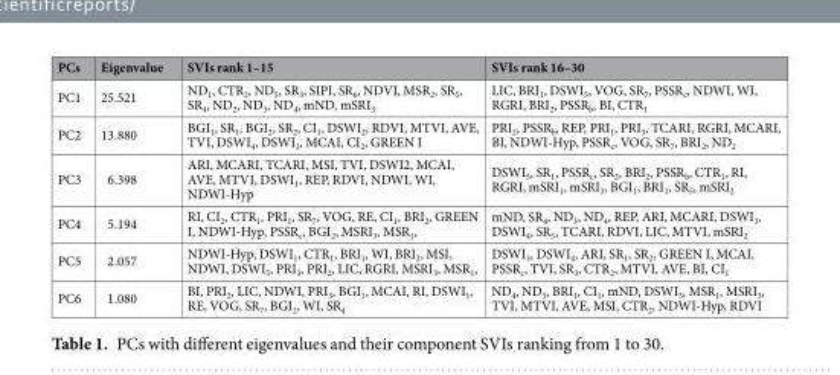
<table><thead><tr><td>PCs</td><td>Eigenvalue</td><td>SVIs rank 1–15</td><td>SVIs rank 16–30</td></tr></thead><tbody><tr><td>PC1</td><td>25.521</td><td>ND<sub>1</sub>, CTR<sub>2</sub>, ND<sub>5</sub>, SR<sub>3</sub>, SIPI, SR<sub>6</sub>, NDVI, MSR<sub>2</sub>, SR<sub>5</sub>, SR<sub>4</sub>, ND<sub>2</sub>, ND<sub>3</sub>, ND<sub>4</sub>, mND, mSRI<sub>3</sub></td><td>LIC, BRI<sub>1</sub>, DSWI<sub>5</sub>, VOG, SR<sub>7</sub>, PSSR<sub>c</sub>, NDWI, WI, RGRI, BRI<sub>2</sub>, PSSR<sub>b</sub>, BI, CTR<sub>1</sub></td></tr><tr><td>PC2</td><td>13.880</td><td>BGI<sub>1</sub>, SR<sub>1</sub>, BGI<sub>2</sub>, SR<sub>2</sub>, CI<sub>1</sub>, DSWI<sub>2</sub>, RDVI, MTVI, AVE, TVI, DSWI<sub>4</sub>, DSWI<sub>3</sub>, MCAI, CI<sub>2</sub>, GREEN I</td><td>PRI<sub>2</sub>, PSSR<sub>b</sub>, REP, PRI<sub>1</sub>, PRI<sub>3</sub>, TCARI, RGRI, MCARI, BI, NDWI-Hyp, PSSR<sub>c</sub>, VOG, SR<sub>7</sub>, BRI<sub>2</sub>, ND<sub>2</sub></td></tr><tr><td>PC3</td><td>6.398</td><td>ARI, MCARI, TCARI, MSI, TVI, DSWI2, MCAI, AVE, MTVI, DSWI<sub>1</sub>, REP, RDVI, NDWI, WI, NDWI-Hyp</td><td>DSWI<sub>5</sub>, SR<sub>1</sub>, PSSR<sub>c</sub>, SR<sub>2</sub>, BRI<sub>2</sub>, PSSR<sub>b</sub>, CTR<sub>1</sub>, RI, RGRI, mSRI<sub>1</sub>, mSRI<sub>3</sub>, BGI<sub>1</sub>, BRI<sub>1</sub>, SR<sub>5</sub>, mSRI<sub>2</sub></td></tr><tr><td>PC4</td><td>5.194</td><td>RI, CI<sub>2</sub>, CTR<sub>1</sub>, PRI<sub>1</sub>, SR<sub>7</sub>, VOG, RE, CI<sub>1</sub>, BRI<sub>2</sub>, GREEN I, NDWI-Hyp, PSSR<sub>c</sub>, BGI<sub>2</sub>, MSRI<sub>3</sub>, MSR<sub>1</sub>,</td><td>mND, SR<sub>4</sub>, ND<sub>3</sub>, ND<sub>4</sub>, REP, ARI, MCARI, DSWI<sub>3</sub>, DSWI<sub>4</sub>, SR<sub>5</sub>, TCARI, RDVI, LIC, MTVI, mSRI<sub>2</sub></td></tr><tr><td>PC5</td><td>2.057</td><td>NDWI-Hyp, DSWI<sub>1</sub>, CTR<sub>1</sub>, BRI<sub>1</sub>, WI, BRI<sub>2</sub>, MSI, NDWI, DSWI<sub>5</sub>, PRI<sub>3</sub>, PRI<sub>2</sub>, LIC, RGRI, MSRI<sub>3</sub>, MSR<sub>1</sub>,</td><td>DSWI<sub>3</sub>, DSWI<sub>4</sub>, ARI, SR<sub>1</sub>, SR<sub>2</sub>, GREEN I, MCAI, PSSR<sub>c</sub>, TVI, SR<sub>3</sub>, CTR<sub>2</sub>, MTVI, AVE, BI, CI<sub>1</sub></td></tr><tr><td>PC6</td><td>1.080</td><td>BI, PRI<sub>2</sub>, LIC, NDWI, PRI<sub>3</sub>, BGI<sub>1</sub>, MCAI, RI, DSWI<sub>1</sub>, RE, VOG, SR<sub>7</sub>, BGI<sub>2</sub>, WI, SR<sub>4</sub></td><td>ND<sub>4</sub>, ND<sub>3</sub>, BRI<sub>1</sub>, CI<sub>1</sub>, mND, DSWI<sub>5</sub>, MSR<sub>1</sub>, MSRI<sub>3</sub>, TVI, MTVI, AVE, MSI, CTR<sub>2</sub>, NDWI-Hyp, RDVI</td></tr></tbody></table>